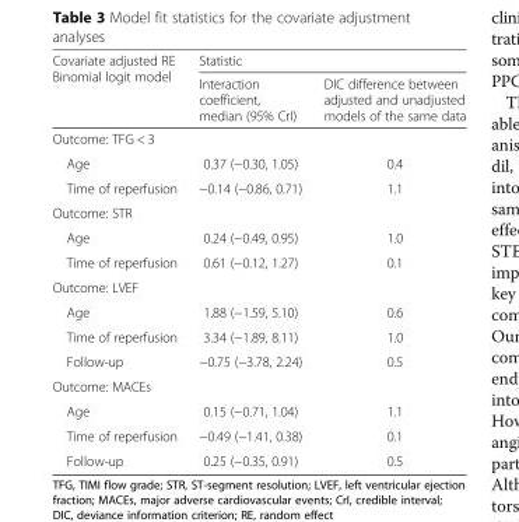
<table><thead><tr><td rowspan="2">Covariate adjusted RE Binomial logit model</td><td colspan="2">Statistic</td></tr><tr><td>Interaction coefficient, median (95% CrI)</td><td>DIC difference between adjusted and unadjusted models of the same data</td></tr></thead><tbody><tr><td colspan="3">Outcome: TFG &lt; 3</td></tr><tr><td>Age</td><td>0.37 (−0.30, 1.05)</td><td>0.4</td></tr><tr><td>Time of reperfusion</td><td>−0.14 (−0.86, 0.71)</td><td>1.1</td></tr><tr><td colspan="3">Outcome: STR</td></tr><tr><td>Age</td><td>0.24 (−0.49, 0.95)</td><td>1.0</td></tr><tr><td>Time of reperfusion</td><td>0.61 (−0.12, 1.27)</td><td>0.1</td></tr><tr><td colspan="3">Outcome: LVEF</td></tr><tr><td>Age</td><td>1.88 (−1.59, 5.10)</td><td>0.6</td></tr><tr><td>Time of reperfusion</td><td>3.34 (−1.89, 8.11)</td><td>1.0</td></tr><tr><td>Follow-up</td><td>−0.75 (−3.78, 2.24)</td><td>0.5</td></tr><tr><td colspan="3">Outcome: MACEs</td></tr><tr><td>Age</td><td>0.15 (−0.71, 1.04)</td><td>1.1</td></tr><tr><td>Time of reperfusion</td><td>−0.49 (−1.41, 0.38)</td><td>0.1</td></tr><tr><td>Follow-up</td><td>0.25 (−0.35, 0.91)</td><td>0.5</td></tr></tbody></table>